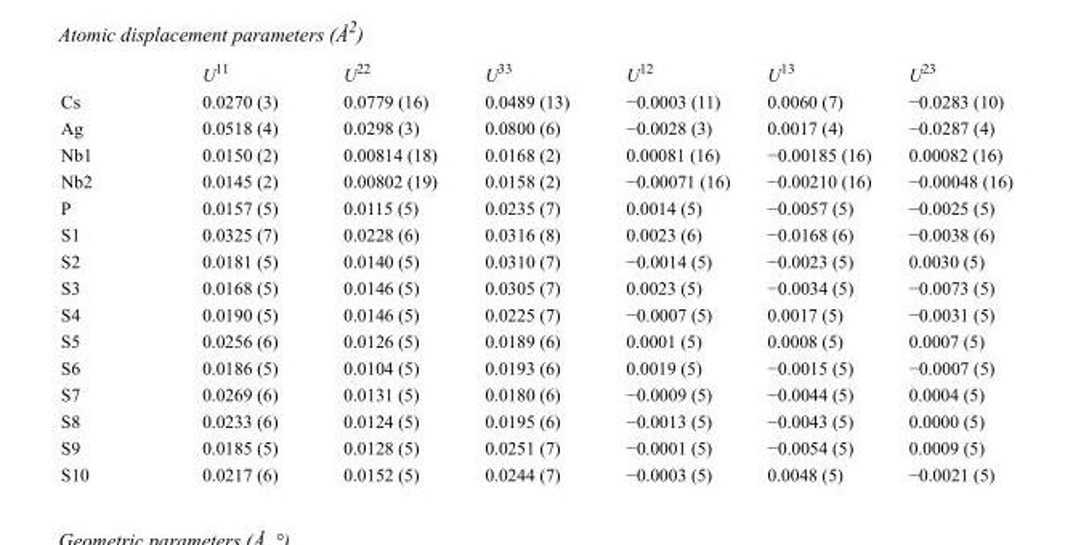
<table><thead><tr><td></td><td>U<sup>11</sup></td><td>U<sup>22</sup></td><td>U<sup>33</sup></td><td>U<sup>12</sup></td><td>U<sup>13</sup></td><td>U<sup>23</sup></td></tr></thead><tbody><tr><td>Cs</td><td>0.0270 (3)</td><td>0.0779 (16)</td><td>0.0489 (13)</td><td>−0.0003 (11)</td><td>0.0060 (7)</td><td>−0.0283 (10)</td></tr><tr><td>Ag</td><td>0.0518 (4)</td><td>0.0298 (3)</td><td>0.0800 (6)</td><td>−0.0028 (3)</td><td>0.0017 (4)</td><td>−0.0287 (4)</td></tr><tr><td>Nb1</td><td>0.0150 (2)</td><td>0.00814 (18)</td><td>0.0168 (2)</td><td>0.00081 (16)</td><td>−0.00185 (16)</td><td>0.00082 (16)</td></tr><tr><td>Nb2</td><td>0.0145 (2)</td><td>0.00802 (19)</td><td>0.0158 (2)</td><td>−0.00071 (16)</td><td>−0.00210 (16)</td><td>−0.00048 (16)</td></tr><tr><td>P</td><td>0.0157 (5)</td><td>0.0115 (5)</td><td>0.0235 (7)</td><td>0.0014 (5)</td><td>−0.0057 (5)</td><td>−0.0025 (5)</td></tr><tr><td>S1</td><td>0.0325 (7)</td><td>0.0228 (6)</td><td>0.0316 (8)</td><td>0.0023 (6)</td><td>−0.0168 (6)</td><td>−0.0038 (6)</td></tr><tr><td>S2</td><td>0.0181 (5)</td><td>0.0140 (5)</td><td>0.0310 (7)</td><td>−0.0014 (5)</td><td>−0.0023 (5)</td><td>0.0030 (5)</td></tr><tr><td>S3</td><td>0.0168 (5)</td><td>0.0146 (5)</td><td>0.0305 (7)</td><td>0.0023 (5)</td><td>−0.0034 (5)</td><td>−0.0073 (5)</td></tr><tr><td>S4</td><td>0.0190 (5)</td><td>0.0146 (5)</td><td>0.0225 (7)</td><td>−0.0007 (5)</td><td>0.0017 (5)</td><td>−0.0031 (5)</td></tr><tr><td>S5</td><td>0.0256 (6)</td><td>0.0126 (5)</td><td>0.0189 (6)</td><td>0.0001 (5)</td><td>0.0008 (5)</td><td>0.0007 (5)</td></tr><tr><td>S6</td><td>0.0186 (5)</td><td>0.0104 (5)</td><td>0.0193 (6)</td><td>0.0019 (5)</td><td>−0.0015 (5)</td><td>−0.0007 (5)</td></tr><tr><td>S7</td><td>0.0269 (6)</td><td>0.0131 (5)</td><td>0.0180 (6)</td><td>−0.0009 (5)</td><td>−0.0044 (5)</td><td>0.0004 (5)</td></tr><tr><td>S8</td><td>0.0233 (6)</td><td>0.0124 (5)</td><td>0.0195 (6)</td><td>−0.0013 (5)</td><td>−0.0043 (5)</td><td>0.0000 (5)</td></tr><tr><td>S9</td><td>0.0185 (5)</td><td>0.0128 (5)</td><td>0.0251 (7)</td><td>−0.0001 (5)</td><td>−0.0054 (5)</td><td>0.0009 (5)</td></tr><tr><td>S10</td><td>0.0217 (6)</td><td>0.0152 (5)</td><td>0.0244 (7)</td><td>−0.0003 (5)</td><td>0.0048 (5)</td><td>−0.0021 (5)</td></tr></tbody></table>